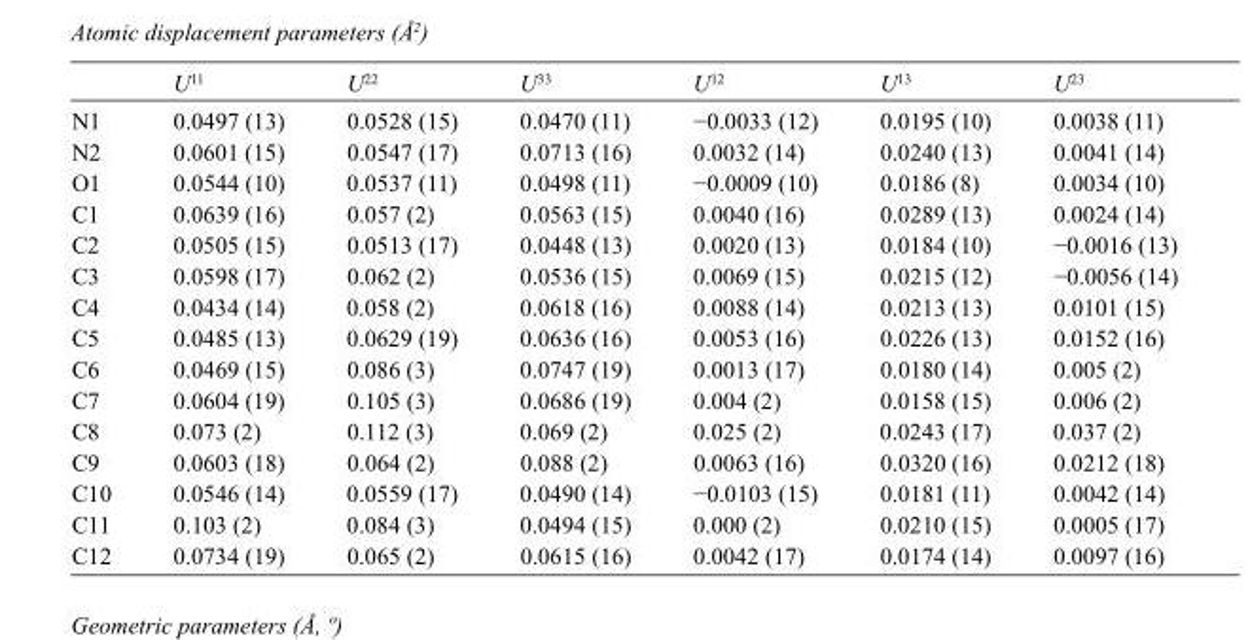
<table><thead><tr><td></td><td>U<sup>11</sup></td><td>U<sup>22</sup></td><td>U<sup>33</sup></td><td>U<sup>12</sup></td><td>U<sup>13</sup></td><td>U<sup>23</sup></td></tr></thead><tbody><tr><td>N1</td><td>0.0497 (13)</td><td>0.0528 (15)</td><td>0.0470 (11)</td><td>−0.0033 (12)</td><td>0.0195 (10)</td><td>0.0038 (11)</td></tr><tr><td>N2</td><td>0.0601 (15)</td><td>0.0547 (17)</td><td>0.0713 (16)</td><td>0.0032 (14)</td><td>0.0240 (13)</td><td>0.0041 (14)</td></tr><tr><td>O1</td><td>0.0544 (10)</td><td>0.0537 (11)</td><td>0.0498 (11)</td><td>−0.0009 (10)</td><td>0.0186 (8)</td><td>0.0034 (10)</td></tr><tr><td>C1</td><td>0.0639 (16)</td><td>0.057 (2)</td><td>0.0563 (15)</td><td>0.0040 (16)</td><td>0.0289 (13)</td><td>0.0024 (14)</td></tr><tr><td>C2</td><td>0.0505 (15)</td><td>0.0513 (17)</td><td>0.0448 (13)</td><td>0.0020 (13)</td><td>0.0184 (10)</td><td>−0.0016 (13)</td></tr><tr><td>C3</td><td>0.0598 (17)</td><td>0.062 (2)</td><td>0.0536 (15)</td><td>0.0069 (15)</td><td>0.0215 (12)</td><td>−0.0056 (14)</td></tr><tr><td>C4</td><td>0.0434 (14)</td><td>0.058 (2)</td><td>0.0618 (16)</td><td>0.0088 (14)</td><td>0.0213 (13)</td><td>0.0101 (15)</td></tr><tr><td>C5</td><td>0.0485 (13)</td><td>0.0629 (19)</td><td>0.0636 (16)</td><td>0.0053 (16)</td><td>0.0226 (13)</td><td>0.0152 (16)</td></tr><tr><td>C6</td><td>0.0469 (15)</td><td>0.086 (3)</td><td>0.0747 (19)</td><td>0.0013 (17)</td><td>0.0180 (14)</td><td>0.005 (2)</td></tr><tr><td>C7</td><td>0.0604 (19)</td><td>0.105 (3)</td><td>0.0686 (19)</td><td>0.004 (2)</td><td>0.0158 (15)</td><td>0.006 (2)</td></tr><tr><td>C8</td><td>0.073 (2)</td><td>0.112 (3)</td><td>0.069 (2)</td><td>0.025 (2)</td><td>0.0243 (17)</td><td>0.037 (2)</td></tr><tr><td>C9</td><td>0.0603 (18)</td><td>0.064 (2)</td><td>0.088 (2)</td><td>0.0063 (16)</td><td>0.0320 (16)</td><td>0.0212 (18)</td></tr><tr><td>C10</td><td>0.0546 (14)</td><td>0.0559 (17)</td><td>0.0490 (14)</td><td>−0.0103 (15)</td><td>0.0181 (11)</td><td>0.0042 (14)</td></tr><tr><td>C11</td><td>0.103 (2)</td><td>0.084 (3)</td><td>0.0494 (15)</td><td>0.000 (2)</td><td>0.0210 (15)</td><td>0.0005 (17)</td></tr><tr><td>C12</td><td>0.0734 (19)</td><td>0.065 (2)</td><td>0.0615 (16)</td><td>0.0042 (17)</td><td>0.0174 (14)</td><td>0.0097 (16)</td></tr></tbody></table>